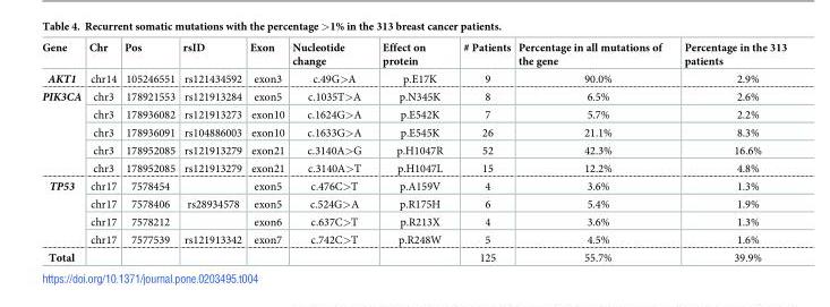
<table><thead><tr><td>Gene</td><td>Chr</td><td>Pos</td><td>rsID</td><td>Exon</td><td>Nucleotide change</td><td>Effect on protein</td><td># Patients</td><td>Percentage in all mutations of the gene</td><td>Percentage in the 313 patients</td></tr></thead><tbody><tr><td>AKT1</td><td>chr14</td><td>105246551</td><td>rs121434592</td><td>exon3</td><td>c.49G&gt;A</td><td>p.E17K</td><td>9</td><td>90.0%</td><td>2.9%</td></tr><tr><td rowspan="5">PIK3CA</td><td>chr3</td><td>178921553</td><td>rs121913284</td><td>exon5</td><td>c.1035T&gt;A</td><td>p.N345K</td><td>8</td><td>6.5%</td><td>2.6%</td></tr><tr><td>chr3</td><td>178936082</td><td>rs121913273</td><td>exon10</td><td>c.1624G&gt;A</td><td>p.E542K</td><td>7</td><td>5.7%</td><td>2.2%</td></tr><tr><td>chr3</td><td>178936091</td><td>rs104886003</td><td>exon10</td><td>c.1633G&gt;A</td><td>p.E545K</td><td>26</td><td>21.1%</td><td>8.3%</td></tr><tr><td>chr3</td><td>178952085</td><td>rs121913279</td><td>exon21</td><td>c.3140A&gt;G</td><td>p.H1047R</td><td>52</td><td>42.3%</td><td>16.6%</td></tr><tr><td>chr3</td><td>178952085</td><td>rs121913279</td><td>exon21</td><td>c.3140A&gt;T</td><td>p.H1047L</td><td>15</td><td>12.2%</td><td>4.8%</td></tr><tr><td rowspan="4">TP53</td><td>chr17</td><td>7578454</td><td></td><td>exon5</td><td>c.476C&gt;T</td><td>p.A159V</td><td>4</td><td>3.6%</td><td>1.3%</td></tr><tr><td>chr17</td><td>7578406</td><td>rs28934578</td><td>exon5</td><td>c.524G&gt;A</td><td>p.R175H</td><td>6</td><td>5.4%</td><td>1.9%</td></tr><tr><td>chr17</td><td>7578212</td><td></td><td>exon6</td><td>c.637C&gt;T</td><td>p.R213X</td><td>4</td><td>3.6%</td><td>1.3%</td></tr><tr><td>chr17</td><td>7577539</td><td>rs121913342</td><td>exon7</td><td>c.742C&gt;T</td><td>p.R248W</td><td>5</td><td>4.5%</td><td>1.6%</td></tr><tr><td>Total</td><td></td><td></td><td></td><td></td><td></td><td></td><td>125</td><td>55.7%</td><td>39.9%</td></tr></tbody></table>